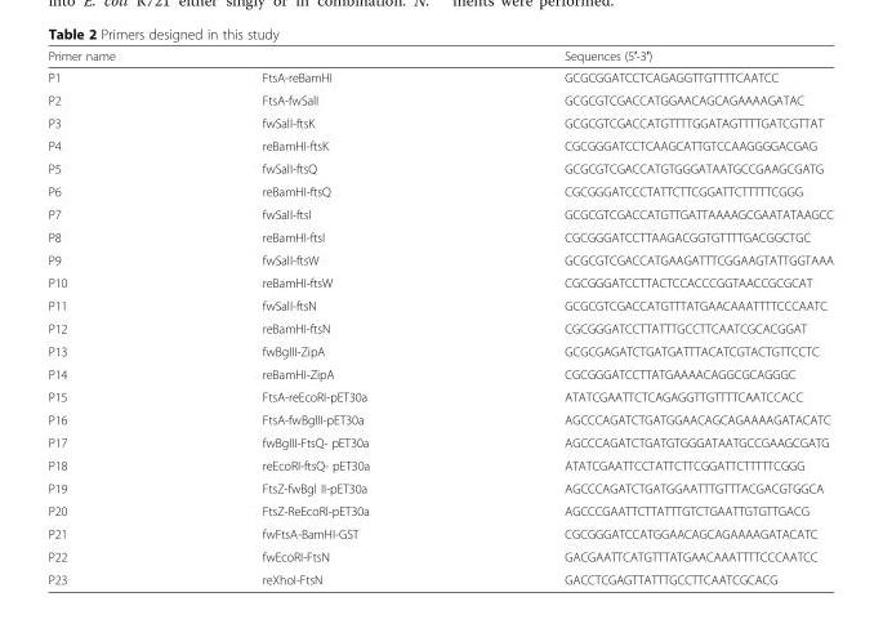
<table><thead><tr><td colspan="2">Primer name</td><td rowspan="2">Sequences (5′-3′) GCGCGGATCCTCAGAGGTTGTTTTCAATCC</td></tr><tr><td>P1</td><td>FtsA-reBamHI</td></tr></thead><tbody><tr><td>P2</td><td>FtsA-fwSalI</td><td>GCGCGTCGACCATGGAACAGCAGAAAAGATAC</td></tr><tr><td>P3</td><td>fwSalI-ftsK</td><td>GCGCGTCGACCATGTTTTGGATAGTTTTGATCGTTAT</td></tr><tr><td>P4</td><td>reBamHI-ftsK</td><td>CGCGGGATCCTCAAGCATTGTCCAAGGGGACGAG</td></tr><tr><td>P5</td><td>fwSalI-ftsQ</td><td>GCGCGTCGACCATGTGGGATAATGCCGAAGCGATG</td></tr><tr><td>P6</td><td>reBamHI-ftsQ</td><td>CGCGGGATCCCTATTCTTCGGATTCTTTTTCGGG</td></tr><tr><td>P7</td><td>fwSalI-ftsI</td><td>GCGCGTCGACCATGTTGATTAAAAGCGAATATAAGCC</td></tr><tr><td>P8</td><td>reBamHI-ftsI</td><td>CGCGGGATCCTTAAGACGGTGTTTTGACGGCTGC</td></tr><tr><td>P9</td><td>fwSalI-ftsW</td><td>GCGCGTCGACCATGAAGATTTCGGAAGTATTGGTAAA</td></tr><tr><td>P10</td><td>reBamHI-ftsW</td><td>CGCGGGATCCTTACTCCACCCGGTAACCGCGCAT</td></tr><tr><td>P11</td><td>fwSalI-ftsN</td><td>GCGCGTCGACCATGTTTATGAACAAATTTTCCCAATC</td></tr><tr><td>P12</td><td>reBamHI-ftsN</td><td>CGCGGGATCCTTATTTGCCTTCAATCGCACGGAT</td></tr><tr><td>P13</td><td>fwBglII-ZipA</td><td>GCGCGAGATCTGATGATTTACATCGTACTGTTCCTC</td></tr><tr><td>P14</td><td>reBamHI-ZipA</td><td>CGCGGGATCCTTATGAAAACAGGCGCAGGGC</td></tr><tr><td>P15</td><td>FtsA-reEcoRI-pET30a</td><td>ATATCGAATTCTCAGAGGTTGTTTTCAATCCACC</td></tr><tr><td>P16</td><td>FtsA-fwBglII-pET30a</td><td>AGCCCAGATCTGATGGAACAGCAGAAAAGATACATC</td></tr><tr><td>P17</td><td>fwBglII-FtsQ- pET30a</td><td>AGCCCAGATCTGATGTGGGATAATGCCGAAGCGATG</td></tr><tr><td>P18</td><td>reEcoRI-ftsQ- pET30a</td><td>ATATCGAATTCCTATTCTTCGGATTCTTTTTCGGG</td></tr><tr><td>P19</td><td>FtsZ-fwBgl II-pET30a</td><td>AGCCCAGATCTGATGGAATTTGTTTACGACGTGGCA</td></tr><tr><td>P20</td><td>FtsZ-ReEcoRI-pET30a</td><td>AGCCCGAATTCTTATTTGTCTGAATTGTGTTGACG</td></tr><tr><td>P21</td><td>fwFtsA-BamHI-GST</td><td>CGCGGGATCCATGGAACAGCAGAAAAGATACATC</td></tr><tr><td>P22</td><td>fwEcoRI-FtsN</td><td>GACGAATTCATGTTTATGAACAAATTTTCCCAATCC</td></tr><tr><td>P23</td><td>reXhoI-FtsN</td><td>GACCTCGAGTTATTTGCCTTCAATCGCACG</td></tr></tbody></table>